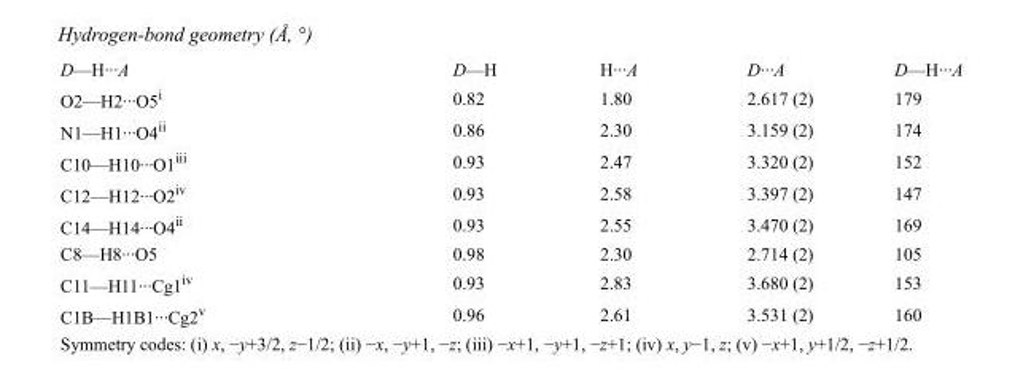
<table><tbody><tr><td>D—H···A</td><td>D—H</td><td>H···A</td><td>D···A</td><td>D—H···A</td></tr><tr><td>O2—H2···O5<sup>i</sup></td><td>0.82</td><td>1.80</td><td>2.617 (2)</td><td>179</td></tr><tr><td>N1—H1···O4<sup>ii</sup></td><td>0.86</td><td>2.30</td><td>3.159 (2)</td><td>174</td></tr><tr><td>C10—H10···O1<sup>iii</sup></td><td>0.93</td><td>2.47</td><td>3.320 (2)</td><td>152</td></tr><tr><td>C12—H12···O2<sup>iv</sup></td><td>0.93</td><td>2.58</td><td>3.397 (2)</td><td>147</td></tr><tr><td>C14—H14···O4<sup>ii</sup></td><td>0.93</td><td>2.55</td><td>3.470 (2)</td><td>169</td></tr><tr><td>C8—H8···O5</td><td>0.98</td><td>2.30</td><td>2.714 (2)</td><td>105</td></tr><tr><td>C11—H11···Cg1<sup>iv</sup></td><td>0.93</td><td>2.83</td><td>3.680 (2)</td><td>153</td></tr><tr><td>C1B—H1B1···Cg2<sup>v</sup></td><td>0.96</td><td>2.61</td><td>3.531 (2)</td><td>160</td></tr></tbody></table>